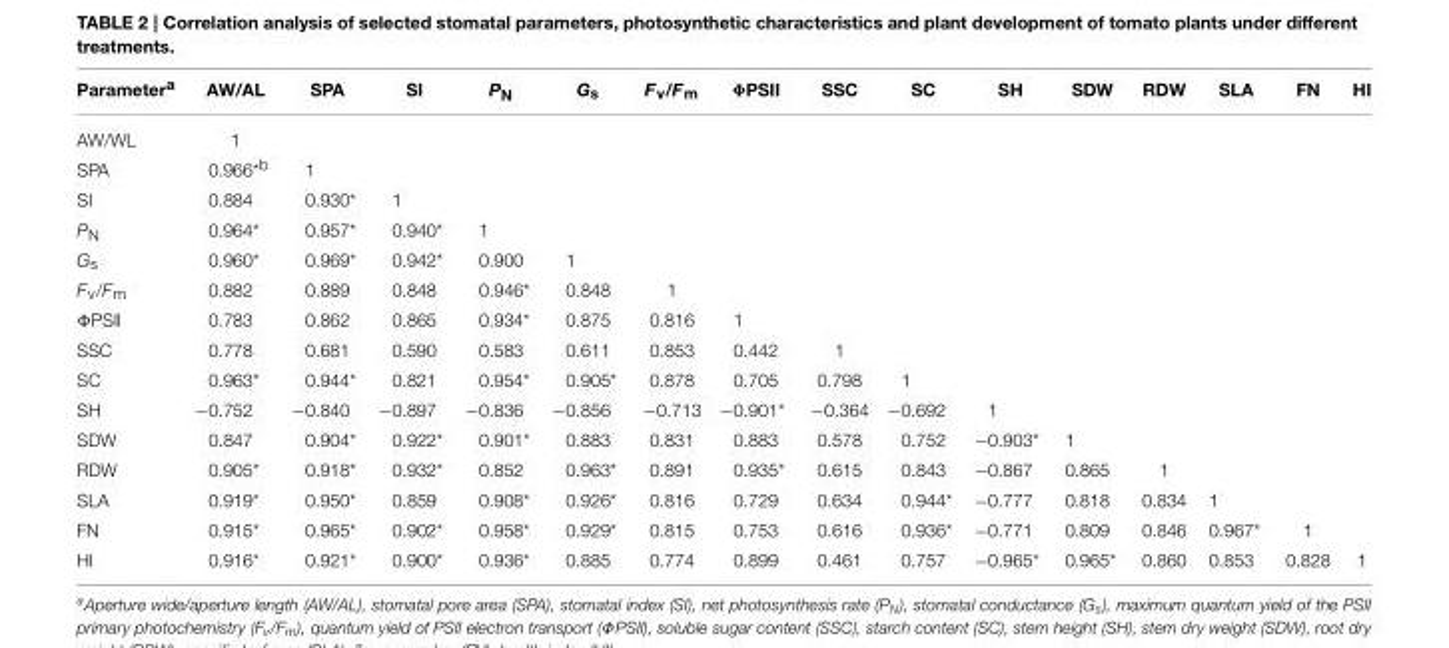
<table><thead><tr><td>Parameter<sup>a</sup></td><td>AW/AL</td><td>SPA</td><td>SI</td><td>P<sub>N</sub></td><td>G<sub>s</sub></td><td>F<sub>v</sub>/F<sub>m</sub></td><td>ΦPSII</td><td>SSC</td><td>SC</td><td>SH</td><td>SDW</td><td>RDW</td><td>SLA</td><td>FN</td><td>HI</td></tr></thead><tbody><tr><td>AW/WL</td><td>1</td><td></td><td></td><td></td><td></td><td></td><td></td><td></td><td></td><td></td><td></td><td></td><td></td><td></td><td></td></tr><tr><td>SPA</td><td>0.966<sup>*b</sup></td><td>1</td><td></td><td></td><td></td><td></td><td></td><td></td><td></td><td></td><td></td><td></td><td></td><td></td><td></td></tr><tr><td>SI</td><td>0.884</td><td>0.930*</td><td>1</td><td></td><td></td><td></td><td></td><td></td><td></td><td></td><td></td><td></td><td></td><td></td><td></td></tr><tr><td>P<sub>N</sub></td><td>0.964*</td><td>0.957*</td><td>0.940*</td><td>1</td><td></td><td></td><td></td><td></td><td></td><td></td><td></td><td></td><td></td><td></td><td></td></tr><tr><td>G<sub>s</sub></td><td>0.960*</td><td>0.969*</td><td>0.942*</td><td>0.900</td><td>1</td><td></td><td></td><td></td><td></td><td></td><td></td><td></td><td></td><td></td><td></td></tr><tr><td>F<sub>v</sub>/F<sub>m</sub></td><td>0.882</td><td>0.889</td><td>0.848</td><td>0.946*</td><td>0.848</td><td>1</td><td></td><td></td><td></td><td></td><td></td><td></td><td></td><td></td><td></td></tr><tr><td>ΦPSII</td><td>0.783</td><td>0.862</td><td>0.865</td><td>0.934*</td><td>0.875</td><td>0.816</td><td>1</td><td></td><td></td><td></td><td></td><td></td><td></td><td></td><td></td></tr><tr><td>SSC</td><td>0.778</td><td>0.681</td><td>0.590</td><td>0.583</td><td>0.611</td><td>0.853</td><td>0.442</td><td>1</td><td></td><td></td><td></td><td></td><td></td><td></td><td></td></tr><tr><td>SC</td><td>0.963*</td><td>0.944*</td><td>0.821</td><td>0.954*</td><td>0.905*</td><td>0.878</td><td>0.705</td><td>0.798</td><td>1</td><td></td><td></td><td></td><td></td><td></td><td></td></tr><tr><td>SH</td><td>−0.752</td><td>−0.840</td><td>−0.897</td><td>−0.836</td><td>−0.856</td><td>−0.713</td><td>−0.901*</td><td>−0.364</td><td>−0.692</td><td>1</td><td></td><td></td><td></td><td></td><td></td></tr><tr><td>SDW</td><td>0.847</td><td>0.904*</td><td>0.922*</td><td>0.901*</td><td>0.883</td><td>0.831</td><td>0.883</td><td>0.578</td><td>0.752</td><td>−0.903*</td><td>1</td><td></td><td></td><td></td><td></td></tr><tr><td>RDW</td><td>0.905*</td><td>0.918*</td><td>0.932*</td><td>0.852</td><td>0.963*</td><td>0.891</td><td>0.935*</td><td>0.615</td><td>0.843</td><td>−0.867</td><td>0.865</td><td>1</td><td></td><td></td><td></td></tr><tr><td>SLA</td><td>0.919*</td><td>0.950*</td><td>0.859</td><td>0.908*</td><td>0.926*</td><td>0.816</td><td>0.729</td><td>0.634</td><td>0.944*</td><td>−0.777</td><td>0.818</td><td>0.834</td><td>1</td><td></td><td></td></tr><tr><td>FN</td><td>0.915*</td><td>0.965*</td><td>0.902*</td><td>0.958*</td><td>0.929*</td><td>0.815</td><td>0.753</td><td>0.616</td><td>0.936*</td><td>−0.771</td><td>0.809</td><td>0.846</td><td>0.967*</td><td>1</td><td></td></tr><tr><td>HI</td><td>0.916*</td><td>0.921*</td><td>0.900*</td><td>0.936*</td><td>0.885</td><td>0.774</td><td>0.899</td><td>0.461</td><td>0.757</td><td>−0.965*</td><td>0.965*</td><td>0.860</td><td>0.853</td><td>0.828</td><td>1</td></tr></tbody></table>